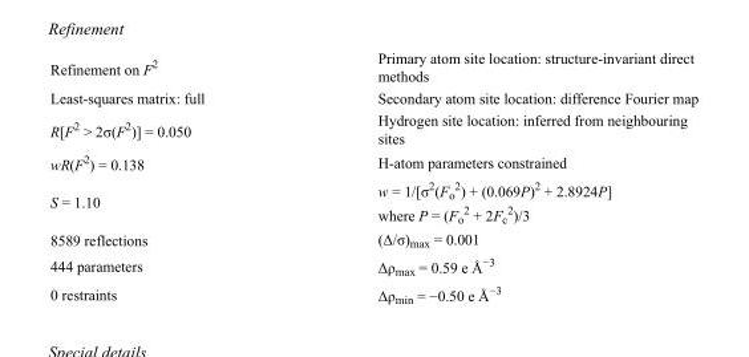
<table><tbody><tr><td>Refinement on F<sup>2</sup></td><td>Primary atom site location: structure-invariant direct methods</td></tr><tr><td>Least-squares matrix: full</td><td>Secondary atom site location: difference Fourier map</td></tr><tr><td>R[F<sup>2</sup> &gt; 2σ(F<sup>2</sup>)] = 0.050</td><td>Hydrogen site location: inferred from neighbouring sites</td></tr><tr><td>wR(F<sup>2</sup>) = 0.138</td><td>H-atom parameters constrained</td></tr><tr><td>S = 1.10</td><td>w = 1/[σ<sup>2</sup>(F<sub>o</sub> <sup>2</sup>) + (0.069P)<sup>2</sup> + 2.8924P] where P = (F<sub>o</sub> <sup>2</sup> + 2F<sub>c</sub> <sup>2</sup>)/3</td></tr><tr><td>8589 reflections</td><td>(Δ/σ)<sub>max</sub> = 0.001</td></tr><tr><td>444 parameters</td><td>Δρ<sub>max</sub> = 0.59 e Å<sup>−3</sup></td></tr><tr><td>0 restraints</td><td>Δρ<sub>min</sub> = −0.50 e Å<sup>−3</sup></td></tr></tbody></table>